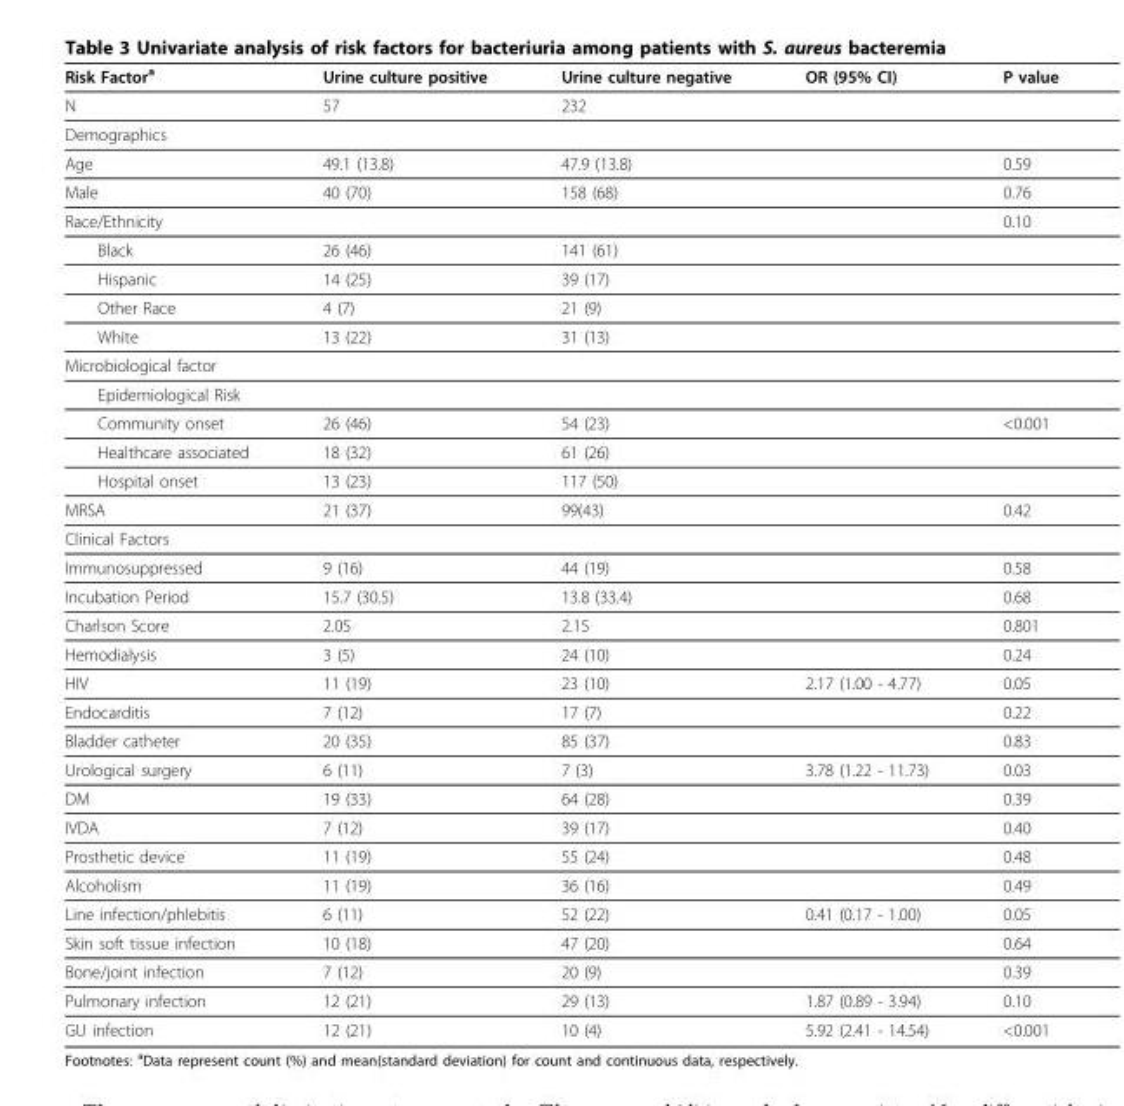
<table><thead><tr><td>Risk Factor<sup>a</sup></td><td>Urine culture positive</td><td>Urine culture negative</td><td>OR (95% CI)</td><td>P value</td></tr></thead><tbody><tr><td>N</td><td>57</td><td>232</td><td></td><td></td></tr><tr><td colspan="5">Demographics</td></tr><tr><td>Age</td><td>49.1 (13.8)</td><td>47.9 (13.8)</td><td></td><td>0.59</td></tr><tr><td>Male</td><td>40 (70)</td><td>158 (68)</td><td></td><td>0.76</td></tr><tr><td>Race/Ethnicity</td><td></td><td></td><td></td><td>0.10</td></tr><tr><td>Black</td><td>26 (46)</td><td>141 (61)</td><td></td><td></td></tr><tr><td>Hispanic</td><td>14 (25)</td><td>39 (17)</td><td></td><td></td></tr><tr><td>Other Race</td><td>4 (7)</td><td>21 (9)</td><td></td><td></td></tr><tr><td>White</td><td>13 (22)</td><td>31 (13)</td><td></td><td></td></tr><tr><td colspan="5">Microbiological factor</td></tr><tr><td colspan="5">Epidemiological Risk</td></tr><tr><td>Community onset</td><td>26 (46)</td><td>54 (23)</td><td></td><td>&lt;0.001</td></tr><tr><td>Healthcare associated</td><td>18 (32)</td><td>61 (26)</td><td></td><td></td></tr><tr><td>Hospital onset</td><td>13 (23)</td><td>117 (50)</td><td></td><td></td></tr><tr><td>MRSA</td><td>21 (37)</td><td>99(43)</td><td></td><td>0.42</td></tr><tr><td colspan="5">Clinical Factors</td></tr><tr><td>Immunosuppressed</td><td>9 (16)</td><td>44 (19)</td><td></td><td>0.58</td></tr><tr><td>Incubation Period</td><td>15.7 (30.5)</td><td>13.8 (33.4)</td><td></td><td>0.68</td></tr><tr><td>Charlson Score</td><td>2.05</td><td>2.15</td><td></td><td>0.801</td></tr><tr><td>Hemodialysis</td><td>3 (5)</td><td>24 (10)</td><td></td><td>0.24</td></tr><tr><td>HIV</td><td>11 (19)</td><td>23 (10)</td><td>2.17 (1.00 - 4.77)</td><td>0.05</td></tr><tr><td>Endocarditis</td><td>7 (12)</td><td>17 (7)</td><td></td><td>0.22</td></tr><tr><td>Bladder catheter</td><td>20 (35)</td><td>85 (37)</td><td></td><td>0.83</td></tr><tr><td>Urological surgery</td><td>6 (11)</td><td>7 (3)</td><td>3.78 (1.22 - 11.73)</td><td>0.03</td></tr><tr><td>DM</td><td>19 (33)</td><td>64 (28)</td><td></td><td>0.39</td></tr><tr><td>IVDA</td><td>7 (12)</td><td>39 (17)</td><td></td><td>0.40</td></tr><tr><td>Prosthetic device</td><td>11 (19)</td><td>55 (24)</td><td></td><td>0.48</td></tr><tr><td>Alcoholism</td><td>11 (19)</td><td>36 (16)</td><td></td><td>0.49</td></tr><tr><td>Line infection/phlebitis</td><td>6 (11)</td><td>52 (22)</td><td>0.41 (0.17 - 1.00)</td><td>0.05</td></tr><tr><td>Skin soft tissue infection</td><td>10 (18)</td><td>47 (20)</td><td></td><td>0.64</td></tr><tr><td>Bone/joint infection</td><td>7 (12)</td><td>20 (9)</td><td></td><td>0.39</td></tr><tr><td>Pulmonary infection</td><td>12 (21)</td><td>29 (13)</td><td>1.87 (0.89 - 3.94)</td><td>0.10</td></tr><tr><td>GU infection</td><td>12 (21)</td><td>10 (4)</td><td>5.92 (2.41 - 14.54)</td><td>&lt;0.001</td></tr></tbody></table>